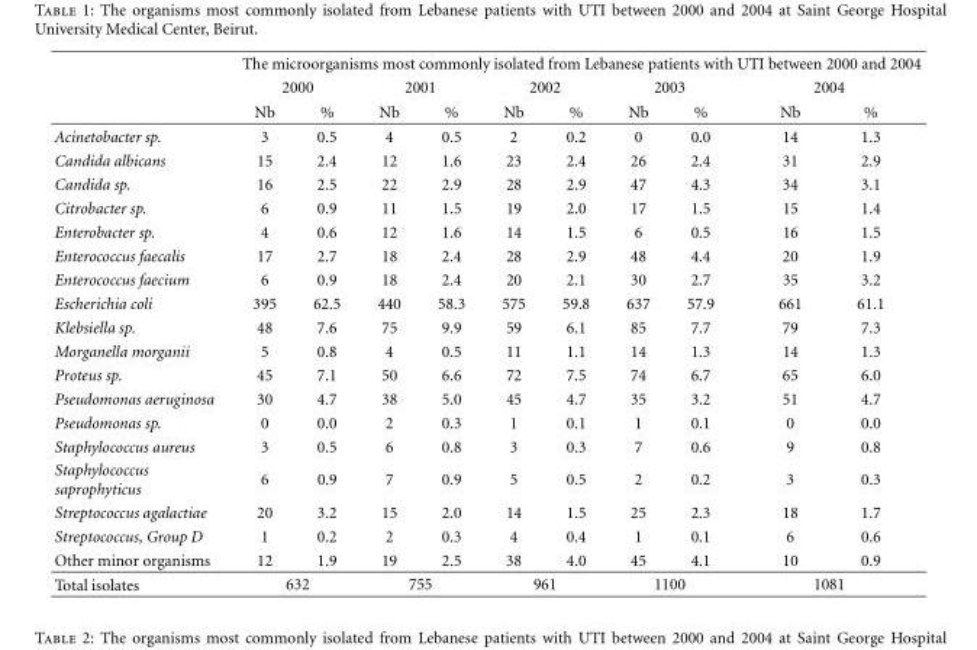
<table><thead><tr><td rowspan="3"></td><td colspan="10">The microorganisms most commonly isolated from Lebanese patients with UTI between 2000 and 2004</td></tr><tr><td colspan="2">2000</td><td colspan="2">2001</td><td colspan="2">2002</td><td colspan="2">2003</td><td colspan="2">2004</td></tr><tr><td>Nb</td><td>%</td><td>Nb</td><td>%</td><td>Nb</td><td>%</td><td>Nb</td><td>%</td><td>Nb</td><td>%</td></tr></thead><tbody><tr><td>Acinetobacter sp.</td><td>3</td><td>0.5</td><td>4</td><td>0.5</td><td>2</td><td>0.2</td><td>0</td><td>0.0</td><td>14</td><td>1.3</td></tr><tr><td>Candida albicans</td><td>15</td><td>2.4</td><td>12</td><td>1.6</td><td>23</td><td>2.4</td><td>26</td><td>2.4</td><td>31</td><td>2.9</td></tr><tr><td>Candida sp.</td><td>16</td><td>2.5</td><td>22</td><td>2.9</td><td>28</td><td>2.9</td><td>47</td><td>4.3</td><td>34</td><td>3.1</td></tr><tr><td>Citrobacter sp.</td><td>6</td><td>0.9</td><td>11</td><td>1.5</td><td>19</td><td>2.0</td><td>17</td><td>1.5</td><td>15</td><td>1.4</td></tr><tr><td>Enterobacter sp.</td><td>4</td><td>0.6</td><td>12</td><td>1.6</td><td>14</td><td>1.5</td><td>6</td><td>0.5</td><td>16</td><td>1.5</td></tr><tr><td>Enterococcus faecalis</td><td>17</td><td>2.7</td><td>18</td><td>2.4</td><td>28</td><td>2.9</td><td>48</td><td>4.4</td><td>20</td><td>1.9</td></tr><tr><td>Enterococcus faecium</td><td>6</td><td>0.9</td><td>18</td><td>2.4</td><td>20</td><td>2.1</td><td>30</td><td>2.7</td><td>35</td><td>3.2</td></tr><tr><td>Escherichia coli</td><td>395</td><td>62.5</td><td>440</td><td>58.3</td><td>575</td><td>59.8</td><td>637</td><td>57.9</td><td>661</td><td>61.1</td></tr><tr><td>Klebsiella sp.</td><td>48</td><td>7.6</td><td>75</td><td>9.9</td><td>59</td><td>6.1</td><td>85</td><td>7.7</td><td>79</td><td>7.3</td></tr><tr><td>Morganella morganii</td><td>5</td><td>0.8</td><td>4</td><td>0.5</td><td>11</td><td>1.1</td><td>14</td><td>1.3</td><td>14</td><td>1.3</td></tr><tr><td>Proteus sp.</td><td>45</td><td>7.1</td><td>50</td><td>6.6</td><td>72</td><td>7.5</td><td>74</td><td>6.7</td><td>65</td><td>6.0</td></tr><tr><td>Pseudomonas aeruginosa</td><td>30</td><td>4.7</td><td>38</td><td>5.0</td><td>45</td><td>4.7</td><td>35</td><td>3.2</td><td>51</td><td>4.7</td></tr><tr><td>Pseudomonas sp.</td><td>0</td><td>0.0</td><td>2</td><td>0.3</td><td>1</td><td>0.1</td><td>1</td><td>0.1</td><td>0</td><td>0.0</td></tr><tr><td>Staphylococcus aureus</td><td>3</td><td>0.5</td><td>6</td><td>0.8</td><td>3</td><td>0.3</td><td>7</td><td>0.6</td><td>9</td><td>0.8</td></tr><tr><td>Staphylococcus saprophyticus</td><td>6</td><td>0.9</td><td>7</td><td>0.9</td><td>5</td><td>0.5</td><td>2</td><td>0.2</td><td>3</td><td>0.3</td></tr><tr><td>Streptococcus agalactiae</td><td>20</td><td>3.2</td><td>15</td><td>2.0</td><td>14</td><td>1.5</td><td>25</td><td>2.3</td><td>18</td><td>1.7</td></tr><tr><td>Streptococcus, Group D</td><td>1</td><td>0.2</td><td>2</td><td>0.3</td><td>4</td><td>0.4</td><td>1</td><td>0.1</td><td>6</td><td>0.6</td></tr><tr><td>Other minor organisms</td><td>12</td><td>1.9</td><td>19</td><td>2.5</td><td>38</td><td>4.0</td><td>45</td><td>4.1</td><td>10</td><td>0.9</td></tr><tr><td>Total isolates</td><td colspan="2">632</td><td colspan="2">755</td><td colspan="2">961</td><td colspan="2">1100</td><td colspan="2">1081</td></tr></tbody></table>